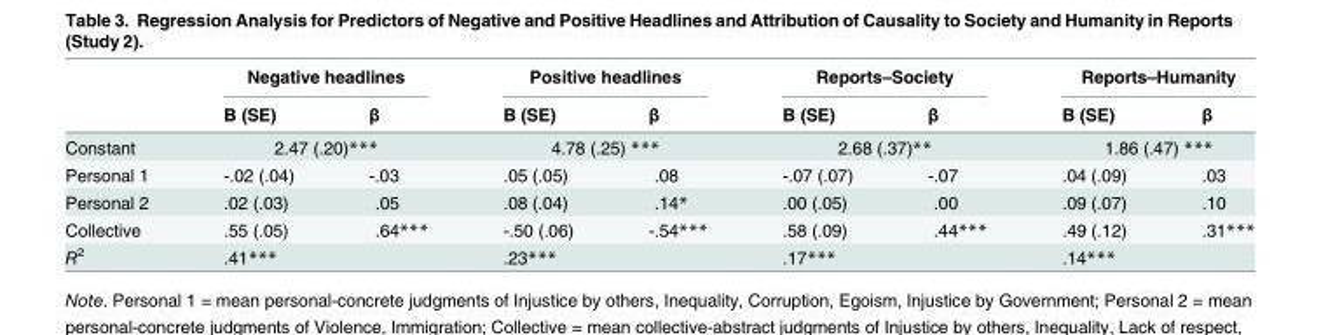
<table><thead><tr><td rowspan="2"></td><td colspan="2">Negative headlines</td><td colspan="2">Positive headlines</td><td colspan="2">Reports–Society</td><td colspan="2">Reports–Humanity</td></tr><tr><td>B (SE)</td><td>β</td><td>B (SE)</td><td>β</td><td>B (SE)</td><td>β</td><td>B (SE)</td><td>β</td></tr></thead><tbody><tr><td>Constant</td><td colspan="2">2.47 (.20)***</td><td colspan="2">4.78 (.25) ***</td><td colspan="2">2.68 (.37)**</td><td colspan="2">1.86 (.47) ***</td></tr><tr><td>Personal 1</td><td>-.02 (.04)</td><td>-.03</td><td>.05 (.05)</td><td>.08</td><td>-.07 (.07)</td><td>-.07</td><td>.04 (.09)</td><td>.03</td></tr><tr><td>Personal 2</td><td>.02 (.03)</td><td>.05</td><td>.08 (.04)</td><td>.14*</td><td>.00 (.05)</td><td>.00</td><td>.09 (.07)</td><td>.10</td></tr><tr><td>Collective</td><td>.55 (.05)</td><td>.64***</td><td>-.50 (.06)</td><td>-.54***</td><td>.58 (.09)</td><td>.44***</td><td>.49 (.12)</td><td>.31***</td></tr><tr><td>R<sup>2</sup></td><td>.41***</td><td></td><td>.23***</td><td></td><td>.17***</td><td></td><td>.14***</td><td></td></tr></tbody></table>